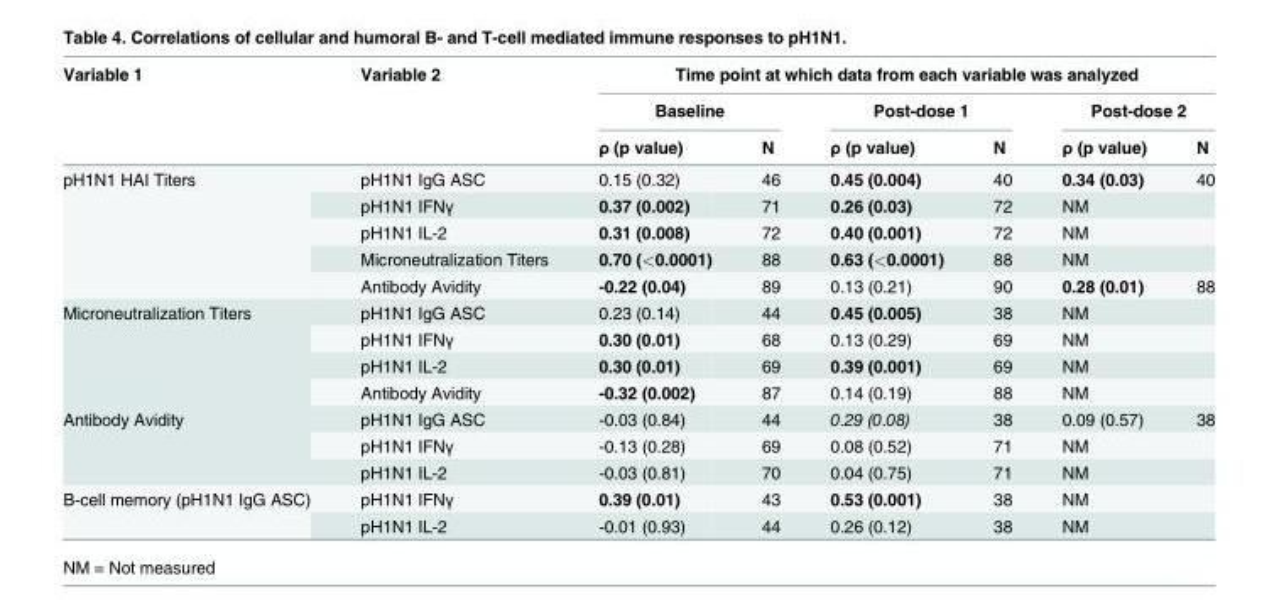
<table><thead><tr><td rowspan="3">Variable 1</td><td rowspan="3">Variable 2</td><td colspan="6">Time point at which data from each variable was analyzed</td></tr><tr><td colspan="2">Baseline</td><td colspan="2">Post-dose 1</td><td colspan="2">Post-dose 2</td></tr><tr><td>ρ (p value)</td><td>N</td><td>ρ (p value)</td><td>N</td><td>ρ (p value)</td><td>N</td></tr></thead><tbody><tr><td rowspan="5">pH1N1 HAI Titers</td><td>pH1N1 IgG ASC</td><td>0.15 (0.32)</td><td>46</td><td>0.45 (0.004)</td><td>40</td><td>0.34 (0.03)</td><td>40</td></tr><tr><td>pH1N1 IFNγ</td><td>0.37 (0.002)</td><td>71</td><td>0.26 (0.03)</td><td>72</td><td>NM</td><td></td></tr><tr><td>pH1N1 IL-2</td><td>0.31 (0.008)</td><td>72</td><td>0.40 (0.001)</td><td>72</td><td>NM</td><td></td></tr><tr><td>Microneutralization Titers</td><td>0.70 (&lt;0.0001)</td><td>88</td><td>0.63 (&lt;0.0001)</td><td>88</td><td>NM</td><td></td></tr><tr><td>Antibody Avidity</td><td>-0.22 (0.04)</td><td>89</td><td>0.13 (0.21)</td><td>90</td><td>0.28 (0.01)</td><td>88</td></tr><tr><td rowspan="4">Microneutralization Titers</td><td>pH1N1 IgG ASC</td><td>0.23 (0.14)</td><td>44</td><td>0.45 (0.005)</td><td>38</td><td>NM</td><td></td></tr><tr><td>pH1N1 IFNγ</td><td>0.30 (0.01)</td><td>68</td><td>0.13 (0.29)</td><td>69</td><td>NM</td><td></td></tr><tr><td>pH1N1 IL-2</td><td>0.30 (0.01)</td><td>69</td><td>0.39 (0.001)</td><td>69</td><td>NM</td><td></td></tr><tr><td>Antibody Avidity</td><td>-0.32 (0.002)</td><td>87</td><td>0.14 (0.19)</td><td>88</td><td>NM</td><td></td></tr><tr><td rowspan="3">Antibody Avidity</td><td>pH1N1 IgG ASC</td><td>-0.03 (0.84)</td><td>44</td><td>0.29 (0.08)</td><td>38</td><td>0.09 (0.57)</td><td>38</td></tr><tr><td>pH1N1 IFNγ</td><td>-0.13 (0.28)</td><td>69</td><td>0.08 (0.52)</td><td>71</td><td>NM</td><td></td></tr><tr><td>pH1N1 IL-2</td><td>-0.03 (0.81)</td><td>70</td><td>0.04 (0.75)</td><td>71</td><td>NM</td><td></td></tr><tr><td rowspan="2">B-cell memory (pH1N1 IgG ASC)</td><td>pH1N1 IFNγ</td><td>0.39 (0.01)</td><td>43</td><td>0.53 (0.001)</td><td>38</td><td>NM</td><td></td></tr><tr><td>pH1N1 IL-2</td><td>-0.01 (0.93)</td><td>44</td><td>0.26 (0.12)</td><td>38</td><td>NM</td><td></td></tr></tbody></table>